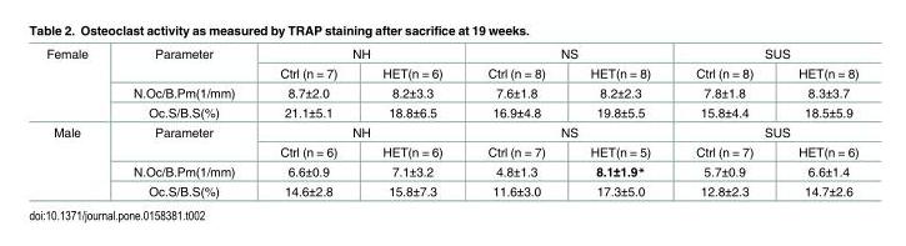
<table><tbody><tr><td rowspan="4">Female</td><td rowspan="2">Parameter</td><td colspan="2">NH</td><td colspan="2">NS</td><td colspan="2">SUS</td></tr><tr><td>Ctrl (n = 7)</td><td>HET(n = 6)</td><td>Ctrl (n = 8)</td><td>HET(n = 8)</td><td>Ctrl (n = 8)</td><td>HET(n = 8)</td></tr><tr><td>N.Oc/B.Pm(1/mm)</td><td>8.7±2.0</td><td>8.2±3.3</td><td>7.6±1.8</td><td>8.2±2.3</td><td>7.8±1.8</td><td>8.3±3.7</td></tr><tr><td>Oc.S/B.S(%)</td><td>21.1±5.1</td><td>18.8±6.5</td><td>16.9±4.8</td><td>19.8±5.5</td><td>15.8±4.4</td><td>18.5±5.9</td></tr><tr><td rowspan="4">Male</td><td rowspan="2">Parameter</td><td colspan="2">NH</td><td colspan="2">NS</td><td colspan="2">SUS</td></tr><tr><td>Ctrl (n = 6)</td><td>HET(n = 6)</td><td>Ctrl (n = 7)</td><td>HET(n = 5)</td><td>Ctrl (n = 7)</td><td>HET(n = 6)</td></tr><tr><td>N.Oc/B.Pm(1/mm)</td><td>6.6±0.9</td><td>7.1±3.2</td><td>4.8±1.3</td><td>8.1±1.9*</td><td>5.7±0.9</td><td>6.6±1.4</td></tr><tr><td>Oc.S/B.S(%)</td><td>14.6±2.8</td><td>15.8±7.3</td><td>11.6±3.0</td><td>17.3±5.0</td><td>12.8±2.3</td><td>14.7±2.6</td></tr></tbody></table>